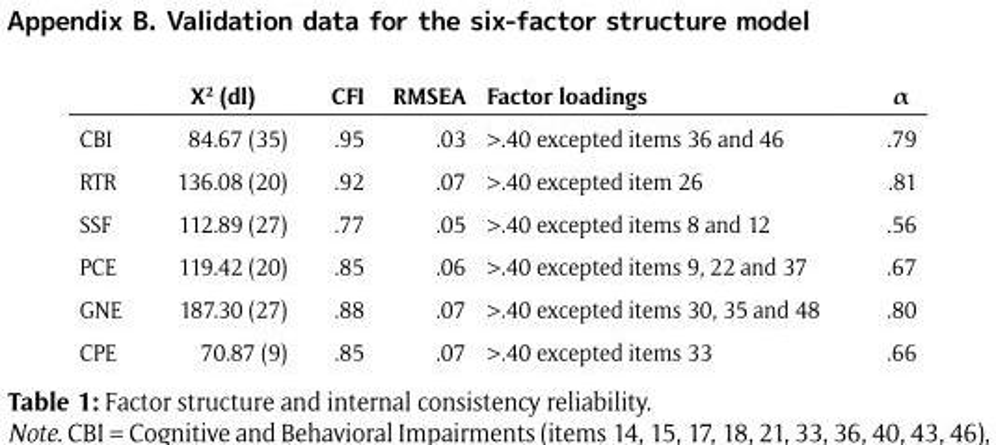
<table><thead><tr><td></td><td>X<sup>2</sup> (dl)</td><td>CFI</td><td>RMSEA</td><td>Factor loadings</td><td>α</td></tr></thead><tbody><tr><td>CBI</td><td>84.67 (35)</td><td>.95</td><td>.03</td><td>&gt;.40 excepted items 36 and 46</td><td>.79</td></tr><tr><td>RTR</td><td>136.08 (20)</td><td>.92</td><td>.07</td><td>&gt;.40 excepted item 26</td><td>.81</td></tr><tr><td>SSF</td><td>112.89 (27)</td><td>.77</td><td>.05</td><td>&gt;.40 excepted items 8 and 12</td><td>.56</td></tr><tr><td>PCE</td><td>119.42 (20)</td><td>.85</td><td>.06</td><td>&gt;.40 excepted items 9, 22 and 37</td><td>.67</td></tr><tr><td>GNE</td><td>187.30 (27)</td><td>.88</td><td>.07</td><td>&gt;.40 excepted items 30, 35 and 48</td><td>.80</td></tr><tr><td>CPE</td><td>70.87 (9)</td><td>.85</td><td>.07</td><td>&gt;.40 excepted items 33</td><td>.66</td></tr></tbody></table>